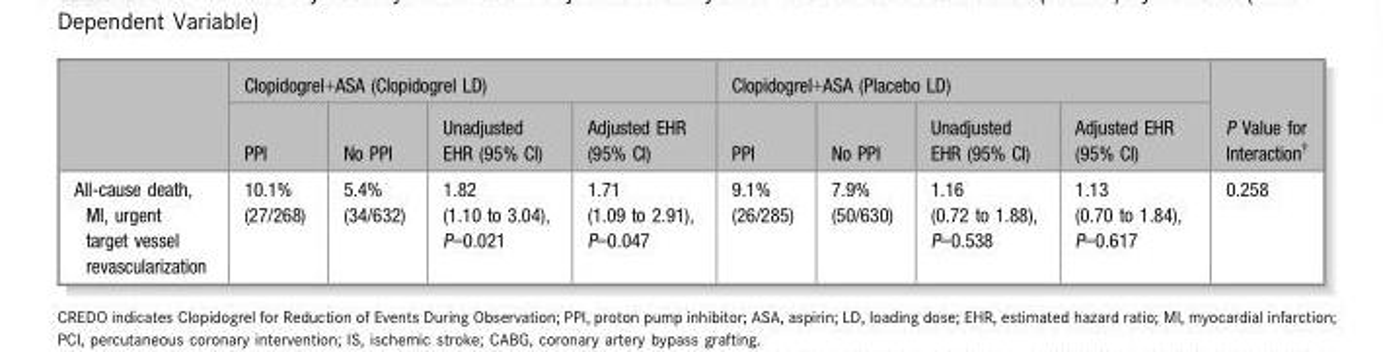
<table><thead><tr><td rowspan="2"></td><td colspan="4">Clopidogrel+ASA (Clopidogrel LD)</td><td colspan="4">Clopidogrel+ASA (Placebo LD)</td><td rowspan="2">P Value for Interaction†</td></tr><tr><td>PPI</td><td>No PPI</td><td>Unadjusted EHR (95% CI)</td><td>Adjusted EHR (95% CI)</td><td>PPI</td><td>No PPI</td><td>Unadjusted EHR (95% CI)</td><td>Adjusted EHR (95% CI)</td></tr></thead><tbody><tr><td>All-cause death, MI, urgent target vessel revascularization</td><td>10.1% (27/268)</td><td>5.4% (34/632)</td><td>1.82 (1.10 to 3.04), P=0.021</td><td>1.71 (1.09 to 2.91), P=0.047</td><td>9.1% (26/285)</td><td>7.9% (50/630)</td><td>1.16 (0.72 to 1.88), P=0.538</td><td>1.13 (0.70 to 1.84), P=0.617</td><td>0.258</td></tr></tbody></table>